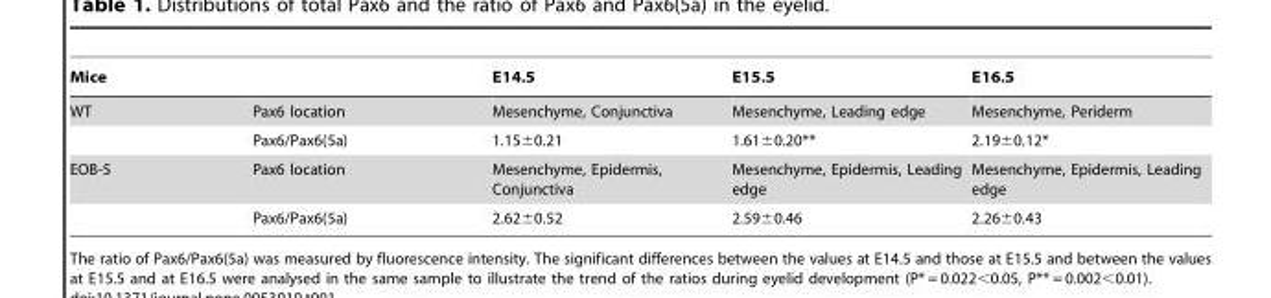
<table><thead><tr><td>Mice</td><td></td><td>E14.5</td><td>E15.5</td><td>E16.5</td></tr></thead><tbody><tr><td rowspan="2">WT</td><td>Pax6 location</td><td>Mesenchyme, Conjunctiva</td><td>Mesenchyme, Leading edge</td><td>Mesenchyme, Periderm</td></tr><tr><td>Pax6/Pax6(5a)</td><td>1.15±0.21</td><td>1.61±0.20**</td><td>2.19±0.12*</td></tr><tr><td rowspan="2">EOB-5</td><td>Pax6 location</td><td>Mesenchyme, Epidermis, Conjunctiva</td><td>Mesenchyme, Epidermis, Leading edge</td><td>Mesenchyme, Epidermis, Leading edge</td></tr><tr><td>Pax6/Pax6(5a)</td><td>2.62±0.52</td><td>2.59±0.46</td><td>2.26±0.43</td></tr></tbody></table>